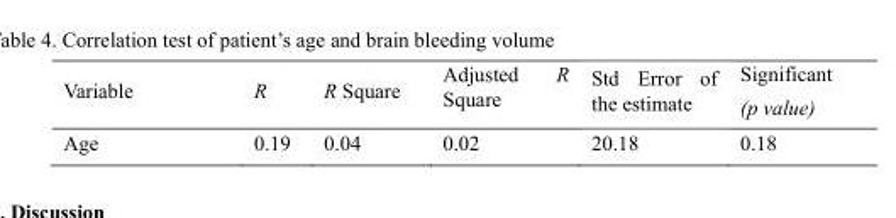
<table><thead><tr><td>Variable</td><td>R</td><td>R Square</td><td>Adjusted R Square</td><td>Std Error of the estimate</td><td>Significant (p value)</td></tr></thead><tbody><tr><td>Age</td><td>0.19</td><td>0.04</td><td>0.02</td><td>20.18</td><td>0.18</td></tr></tbody></table>